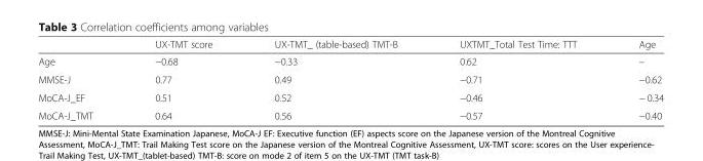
<table><thead><tr><td></td><td>UX-TMT score</td><td>UX-TMT_ (table-based) TMT-B</td><td>UXTMT_Total Test Time: TTT</td><td>Age</td></tr></thead><tbody><tr><td>Age</td><td>−0.68</td><td>−0.33</td><td>0.62</td><td>–</td></tr><tr><td>MMSE-J</td><td>0.77</td><td>0.49</td><td>−0.71</td><td>−0.62</td></tr><tr><td>MoCA-J_EF</td><td>0.51</td><td>0.52</td><td>−0.46</td><td>− 0.34</td></tr><tr><td>MoCA-J_TMT</td><td>0.64</td><td>0.56</td><td>−0.57</td><td>−0.40</td></tr></tbody></table>